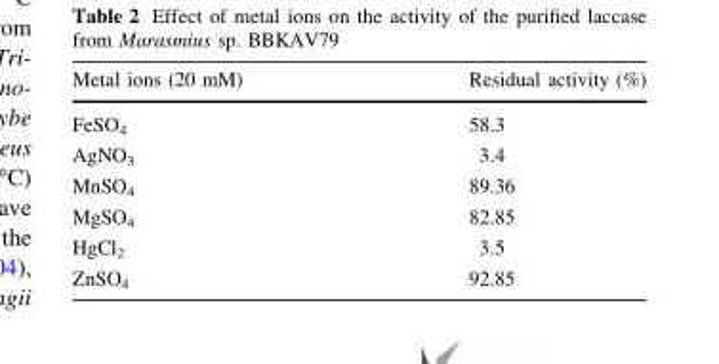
<table><thead><tr><td>Metal ions (20 mM)</td><td>Residual activity (%)</td></tr></thead><tbody><tr><td>FeSO<sub>4</sub></td><td>58.3</td></tr><tr><td>AgNO<sub>3</sub></td><td>3.4</td></tr><tr><td>MnSO<sub>4</sub></td><td>89.36</td></tr><tr><td>MgSO<sub>4</sub></td><td>82.85</td></tr><tr><td>HgCl<sub>2</sub></td><td>3.5</td></tr><tr><td>ZnSO<sub>4</sub></td><td>92.85</td></tr></tbody></table>